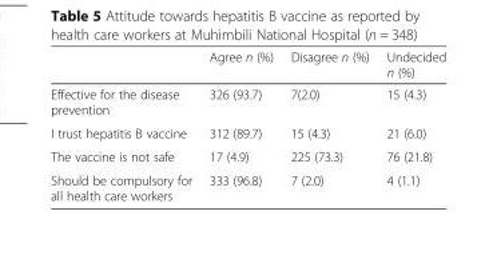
<table><thead><tr><td></td><td>Agree n (%)</td><td>Disagree n (%)</td><td>Undecided n (%)</td></tr></thead><tbody><tr><td>Effective for the disease prevention</td><td>326 (93.7)</td><td>7(2.0)</td><td>15 (4.3)</td></tr><tr><td>I trust hepatitis B vaccine</td><td>312 (89.7)</td><td>15 (4.3)</td><td>21 (6.0)</td></tr><tr><td>The vaccine is not safe</td><td>17 (4.9)</td><td>225 (73.3)</td><td>76 (21.8)</td></tr><tr><td>Should be compulsory for all health care workers</td><td>333 (96.8)</td><td>7 (2.0)</td><td>4 (1.1)</td></tr></tbody></table>